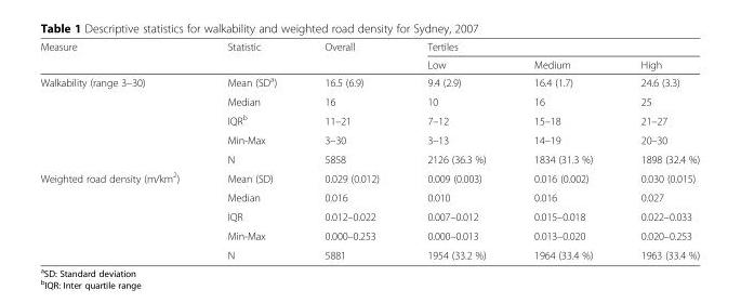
<table><thead><tr><td rowspan="2">Measure</td><td rowspan="2">Statistic</td><td rowspan="2">Overall</td><td colspan="3">Tertiles</td></tr><tr><td>Low</td><td>Medium</td><td>High</td></tr></thead><tbody><tr><td rowspan="5">Walkability (range 3–30)</td><td>Mean (SD<sup>a</sup>)</td><td>16.5 (6.9)</td><td>9.4 (2.9)</td><td>16.4 (1.7)</td><td>24.6 (3.3)</td></tr><tr><td>Median</td><td>16</td><td>10</td><td>16</td><td>25</td></tr><tr><td>IQR<sup>b</sup></td><td>11–21</td><td>7–12</td><td>15–18</td><td>21–27</td></tr><tr><td>Min-Max</td><td>3–30</td><td>3–13</td><td>14–19</td><td>20–30</td></tr><tr><td>N</td><td>5858</td><td>2126 (36.3 %)</td><td>1834 (31.3 %)</td><td>1898 (32.4 %)</td></tr><tr><td rowspan="5">Weighted road density (m/km<sup>2</sup>)</td><td>Mean (SD)</td><td>0.029 (0.012)</td><td>0.009 (0.003)</td><td>0.016 (0.002)</td><td>0.030 (0.015)</td></tr><tr><td>Median</td><td>0.016</td><td>0.010</td><td>0.016</td><td>0.027</td></tr><tr><td>IQR</td><td>0.012–0.022</td><td>0.007–0.012</td><td>0.015–0.018</td><td>0.022–0.033</td></tr><tr><td>Min-Max</td><td>0.000–0.253</td><td>0.000–0.013</td><td>0.013–0.020</td><td>0.020–0.253</td></tr><tr><td>N</td><td>5881</td><td>1954 (33.2 %)</td><td>1964 (33.4 %)</td><td>1963 (33.4 %)</td></tr></tbody></table>